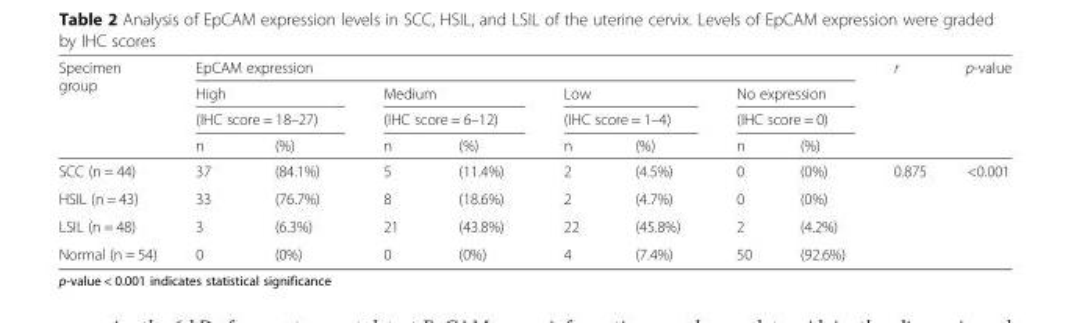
<table><thead><tr><td rowspan="4">Specimen group</td><td colspan="8">EpCAM expression</td><td rowspan="4">r</td><td rowspan="4">p-value</td></tr><tr><td rowspan="2" colspan="2">High (IHC score = 18–27)</td><td rowspan="2" colspan="2">Medium (IHC score = 6–12)</td><td rowspan="2" colspan="2">Low (IHC score = 1–4)</td><td rowspan="2" colspan="2">No expression (IHC score = 0)</td></tr><tr></tr><tr><td>n</td><td>(%)</td><td>n</td><td>(%)</td><td>n</td><td>(%)</td><td>n</td><td>(%)</td></tr></thead><tbody><tr><td>SCC (n = 44)</td><td>37</td><td>(84.1%)</td><td>5</td><td>(11.4%)</td><td>2</td><td>(4.5%)</td><td>0</td><td>(0%)</td><td>0.875</td><td>&lt;0.001</td></tr><tr><td>HSIL (n = 43)</td><td>33</td><td>(76.7%)</td><td>8</td><td>(18.6%)</td><td>2</td><td>(4.7%)</td><td>0</td><td>(0%)</td><td></td><td></td></tr><tr><td>LSIL (n = 48)</td><td>3</td><td>(6.3%)</td><td>21</td><td>(43.8%)</td><td>22</td><td>(45.8%)</td><td>2</td><td>(4.2%)</td><td></td><td></td></tr><tr><td>Normal (n = 54)</td><td>0</td><td>(0%)</td><td>0</td><td>(0%)</td><td>4</td><td>(7.4%)</td><td>50</td><td>(92.6%)</td><td></td><td></td></tr></tbody></table>